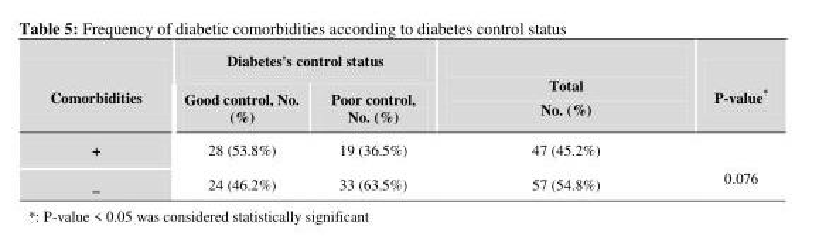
<table><thead><tr><td rowspan="2">Comorbidities</td><td colspan="2">Diabetes&#x27;s control status</td><td rowspan="2">Total No. (%)</td><td rowspan="2">P-value*</td></tr><tr><td>Good control, No. (%)</td><td>Poor control, No. (%)</td></tr></thead><tbody><tr><td>+</td><td>28 (53.8%)</td><td>19 (36.5%)</td><td>47 (45.2%)</td><td rowspan="2">0.076</td></tr><tr><td>_</td><td>24 (46.2%)</td><td>33 (63.5%)</td><td>57 (54.8%)</td></tr></tbody></table>